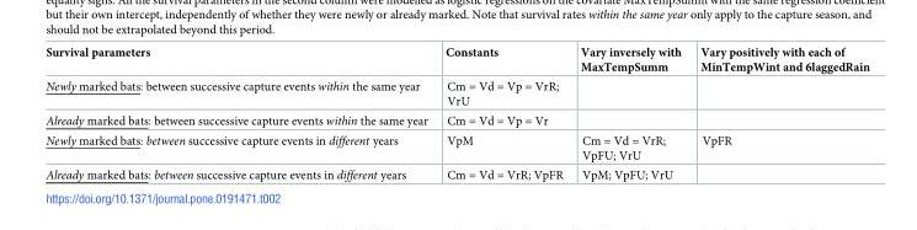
<table><thead><tr><td>Survival parameters</td><td>Constants</td><td>Vary inversely with MaxTempSumm</td><td>Vary positively with each of MinTempWint and 6laggedRain</td></tr></thead><tbody><tr><td>Newly marked bats: between successive capture events within the same year</td><td>Cm = Vd = Vp = VrR; VrU</td><td></td><td></td></tr><tr><td>Already marked bats: between successive capture events within the same year</td><td>Cm = Vd = Vp = Vr</td><td></td><td></td></tr><tr><td>Newly marked bats: between successive capture events in different years</td><td>VpM</td><td>Cm = Vd = VrR; VpFU; VrU</td><td>VpFR</td></tr><tr><td>Already marked bats: between successive capture events in different years</td><td>Cm = Vd = VrR; VpFR</td><td>VpM; VpFU; VrU</td><td></td></tr></tbody></table>